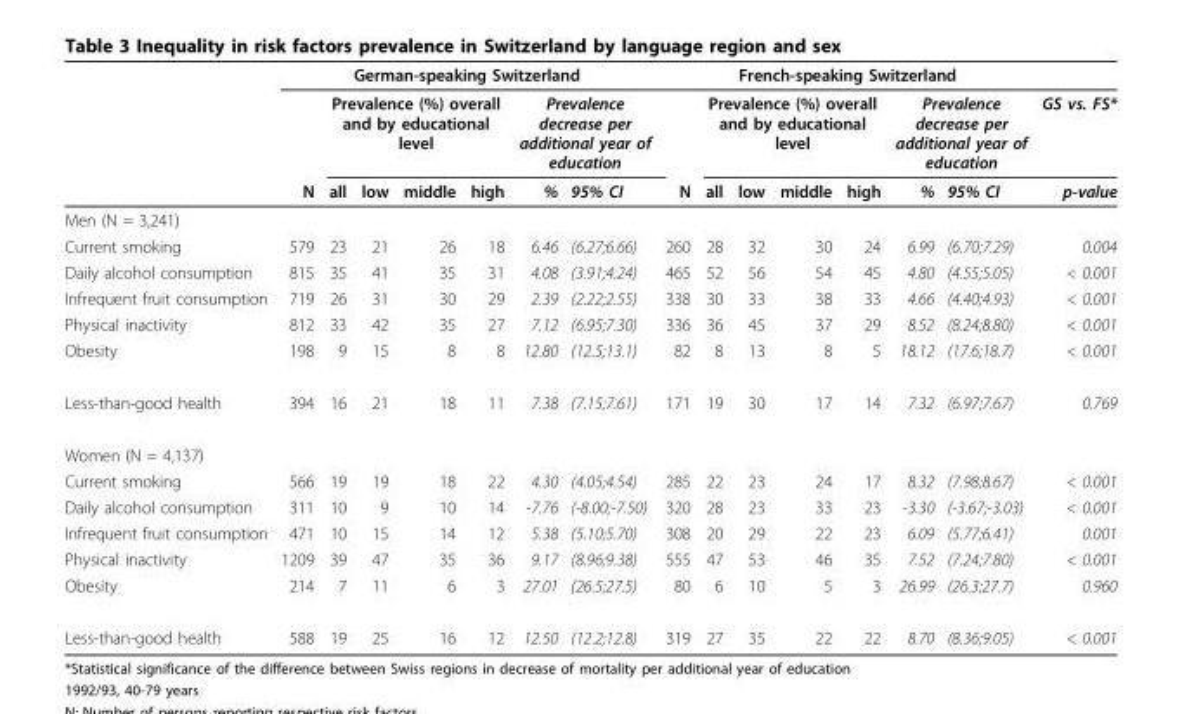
<table><thead><tr><td rowspan="3"></td><td colspan="7">German-speaking Switzerland</td><td colspan="7">French-speaking Switzerland</td><td rowspan="3">GS vs. FS* p-value</td></tr><tr><td rowspan="2">N</td><td colspan="4">Prevalence (%) overall and by educational level</td><td colspan="2">Prevalence decrease per additional year of education</td><td rowspan="2">N</td><td colspan="4">Prevalence (%) overall and by educational level</td><td colspan="2">Prevalence decrease per additional year of education</td></tr><tr><td>all</td><td>low</td><td>middle</td><td>high</td><td>%</td><td>95% CI</td><td>all</td><td>low</td><td>middle</td><td>high</td><td>%</td><td>95% CI</td></tr></thead><tbody><tr><td colspan="16">Men (N = 3,241)</td></tr><tr><td>Current smoking</td><td>579</td><td>23</td><td>21</td><td>26</td><td>18</td><td>6.46</td><td>(6.27;6.66)</td><td>260</td><td>28</td><td>32</td><td>30</td><td>24</td><td>6.99</td><td>(6.70;7.29)</td><td>0.004</td></tr><tr><td>Daily alcohol consumption</td><td>815</td><td>35</td><td>41</td><td>35</td><td>31</td><td>4.08</td><td>(3.91;4.24)</td><td>465</td><td>52</td><td>56</td><td>54</td><td>45</td><td>4.80</td><td>(4.55;5.05)</td><td>&lt; 0.001</td></tr><tr><td>Infrequent fruit consumption</td><td>719</td><td>26</td><td>31</td><td>30</td><td>29</td><td>2.39</td><td>(2.22;2.55)</td><td>338</td><td>30</td><td>33</td><td>38</td><td>33</td><td>4.66</td><td>(4.40;4.93)</td><td>&lt; 0.001</td></tr><tr><td>Physical inactivity</td><td>812</td><td>33</td><td>42</td><td>35</td><td>27</td><td>7.12</td><td>(6.95;7.30)</td><td>336</td><td>36</td><td>45</td><td>37</td><td>29</td><td>8.52</td><td>(8.24;8.80)</td><td>&lt; 0.001</td></tr><tr><td>Obesity</td><td>198</td><td>9</td><td>15</td><td>8</td><td>8</td><td>12.80</td><td>(12.5;13.1)</td><td>82</td><td>8</td><td>13</td><td>8</td><td>5</td><td>18.12</td><td>(17.6;18.7)</td><td>&lt; 0.001</td></tr><tr><td>Less-than-good health</td><td>394</td><td>16</td><td>21</td><td>18</td><td>11</td><td>7.38</td><td>(7.15;7.61)</td><td>171</td><td>19</td><td>30</td><td>17</td><td>14</td><td>7.32</td><td>(6.97;7.67)</td><td>0.769</td></tr><tr><td colspan="16">Women (N = 4,137)</td></tr><tr><td>Current smoking</td><td>566</td><td>19</td><td>19</td><td>18</td><td>22</td><td>4.30</td><td>(4.05;4.54)</td><td>285</td><td>22</td><td>23</td><td>24</td><td>17</td><td>8.32</td><td>(7.98;8.67)</td><td>&lt; 0.001</td></tr><tr><td>Daily alcohol consumption</td><td>311</td><td>10</td><td>9</td><td>10</td><td>14</td><td>-7.76</td><td>(-8.00;-7.50)</td><td>320</td><td>28</td><td>23</td><td>33</td><td>23</td><td>-3.30</td><td>(-3.67;-3.03)</td><td>&lt; 0.001</td></tr><tr><td>Infrequent fruit consumption</td><td>471</td><td>10</td><td>15</td><td>14</td><td>12</td><td>5.38</td><td>(5.10;5.70)</td><td>308</td><td>20</td><td>29</td><td>22</td><td>23</td><td>6.09</td><td>(5.77;6.41)</td><td>0.001</td></tr><tr><td>Physical inactivity</td><td>1209</td><td>39</td><td>47</td><td>35</td><td>36</td><td>9.17</td><td>(8.96;9.38)</td><td>555</td><td>47</td><td>53</td><td>46</td><td>35</td><td>7.52</td><td>(7.24;7.80)</td><td>&lt; 0.001</td></tr><tr><td>Obesity</td><td>214</td><td>7</td><td>11</td><td>6</td><td>3</td><td>27.01</td><td>(26.5;27.5)</td><td>80</td><td>6</td><td>10</td><td>5</td><td>3</td><td>26.99</td><td>(26.3;27.7)</td><td>0.960</td></tr><tr><td>Less-than-good health</td><td>588</td><td>19</td><td>25</td><td>16</td><td>12</td><td>12.50</td><td>(12.2;12.8)</td><td>319</td><td>27</td><td>35</td><td>22</td><td>22</td><td>8.70</td><td>(8.36;9.05)</td><td>&lt; 0.001</td></tr></tbody></table>